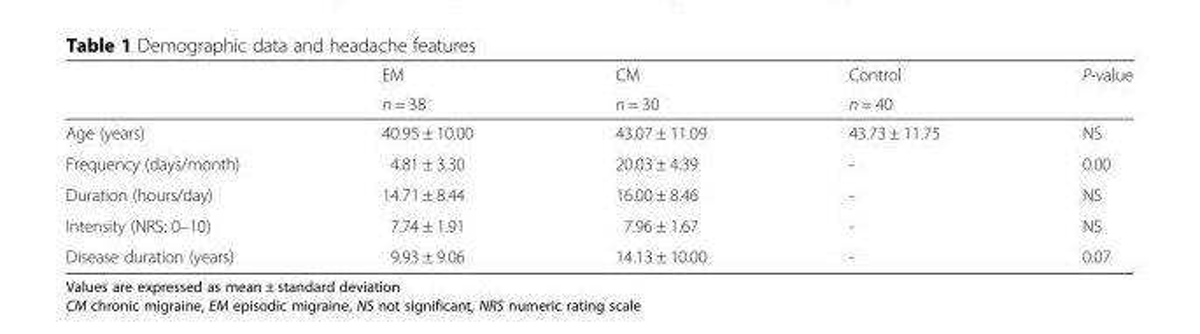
<table><thead><tr><td rowspan="2"></td><td rowspan="2">EM n = 38</td><td rowspan="2">CM n = 30</td><td rowspan="2">Control n = 40</td><td rowspan="2">P-value</td></tr><tr></tr></thead><tbody><tr><td>Age (years)</td><td>40.95 ± 10.00</td><td>43.07 ± 11.09</td><td>43.73 ± 11.75</td><td>NS</td></tr><tr><td>Frequency (days/month)</td><td>4.81 ± 3.30</td><td>20.03 ± 4.39</td><td>-</td><td>0.00</td></tr><tr><td>Duration (hours/day)</td><td>14.71 ± 8.44</td><td>16.00 ± 8.46</td><td>-</td><td>NS</td></tr><tr><td>Intensity (NRS: 0–10)</td><td>7.74 ± 1.91</td><td>7.96 ± 1.67</td><td>-</td><td>NS</td></tr><tr><td>Disease duration (years)</td><td>9.93 ± 9.06</td><td>14.13 ± 10.00</td><td>-</td><td>0.07</td></tr></tbody></table>